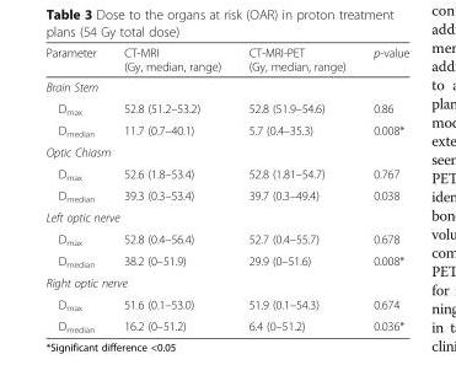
<table><thead><tr><td>Parameter</td><td>CT-MRI (Gy, median, range)</td><td>CT-MRI-PET (Gy, median, range)</td><td>p-value</td></tr></thead><tbody><tr><td colspan="4">Brain Stem</td></tr><tr><td>D<sub>max</sub></td><td>52.8 (51.2–53.2)</td><td>52.8 (51.9–54.6)</td><td>0.86</td></tr><tr><td>D<sub>median</sub></td><td>11.7 (0.7–40.1)</td><td>5.7 (0.4–35.3)</td><td>0.008*</td></tr><tr><td colspan="4">Optic Chiasm</td></tr><tr><td>D<sub>max</sub></td><td>52.6 (1.8–53.4)</td><td>52.8 (1.81–54.7)</td><td>0.767</td></tr><tr><td>D<sub>median</sub></td><td>39.3 (0.3–53.4)</td><td>39.7 (0.3–49.4)</td><td>0.038</td></tr><tr><td colspan="4">Left optic nerve</td></tr><tr><td>D<sub>max</sub></td><td>52.8 (0.4–56.4)</td><td>52.7 (0.4–55.7)</td><td>0.678</td></tr><tr><td>D<sub>median</sub></td><td>38.2 (0–51.9)</td><td>29.9 (0–51.6)</td><td>0.008*</td></tr><tr><td colspan="4">Right optic nerve</td></tr><tr><td>D<sub>max</sub></td><td>51.6 (0.1–53.0)</td><td>51.9 (0.1–54.3)</td><td>0.674</td></tr><tr><td>D<sub>median</sub></td><td>16.2 (0–51.2)</td><td>6.4 (0–51.2)</td><td>0.036*</td></tr></tbody></table>